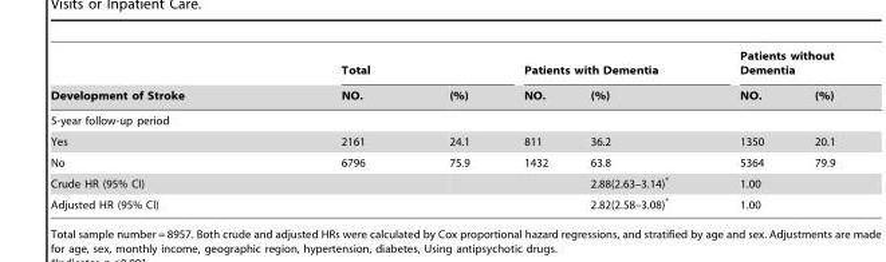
<table><thead><tr><td rowspan="2">Development of Stroke</td><td colspan="2">Total</td><td colspan="2">Patients with Dementia</td><td colspan="2">Patients without Dementia</td></tr><tr><td>NO.</td><td>(%)</td><td>NO.</td><td>(%)</td><td>NO.</td><td>(%)</td></tr></thead><tbody><tr><td colspan="7">5-year follow-up period</td></tr><tr><td>Yes</td><td>2161</td><td>24.1</td><td>811</td><td>36.2</td><td>1350</td><td>20.1</td></tr><tr><td>No</td><td>6796</td><td>75.9</td><td>1432</td><td>63.8</td><td>5364</td><td>79.9</td></tr><tr><td>Crude HR (95% CI)</td><td></td><td></td><td></td><td>2.88(2.63–3.14)*</td><td>1.00</td><td></td></tr><tr><td>Adjusted HR (95% CI)</td><td></td><td></td><td></td><td>2.82(2.58–3.08)*</td><td>1.00</td><td></td></tr></tbody></table>